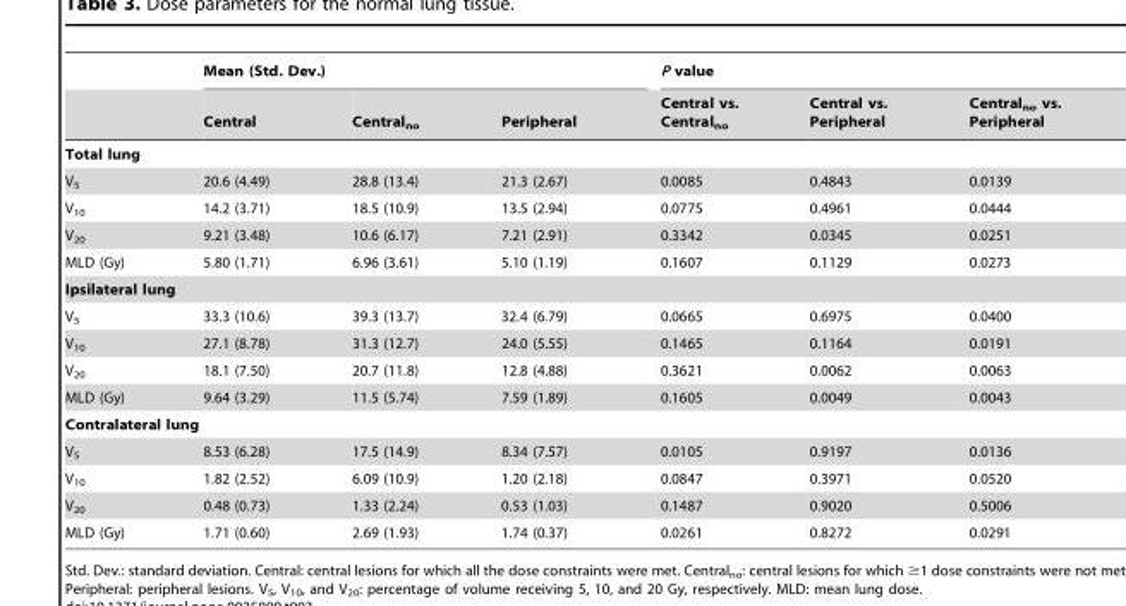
<table><thead><tr><td rowspan="2"></td><td colspan="3">Mean (Std. Dev.)</td><td colspan="3">P value</td></tr><tr><td>Central</td><td>Central<sub>no</sub></td><td>Peripheral</td><td>Central vs. Central<sub>no</sub></td><td>Central vs. Peripheral</td><td>Central<sub>no</sub> vs. Peripheral</td></tr></thead><tbody><tr><td colspan="7">Total lung</td></tr><tr><td>V<sub>5</sub></td><td>20.6 (4.49)</td><td>28.8 (13.4)</td><td>21.3 (2.67)</td><td>0.0085</td><td>0.4843</td><td>0.0139</td></tr><tr><td>V<sub>10</sub></td><td>14.2 (3.71)</td><td>18.5 (10.9)</td><td>13.5 (2.94)</td><td>0.0775</td><td>0.4961</td><td>0.0444</td></tr><tr><td>V<sub>20</sub></td><td>9.21 (3.48)</td><td>10.6 (6.17)</td><td>7.21 (2.91)</td><td>0.3342</td><td>0.0345</td><td>0.0251</td></tr><tr><td>MLD (Gy)</td><td>5.80 (1.71)</td><td>6.96 (3.61)</td><td>5.10 (1.19)</td><td>0.1607</td><td>0.1129</td><td>0.0273</td></tr><tr><td colspan="7">Ipsilateral lung</td></tr><tr><td>V<sub>5</sub></td><td>33.3 (10.6)</td><td>39.3 (13.7)</td><td>32.4 (6.79)</td><td>0.0665</td><td>0.6975</td><td>0.0400</td></tr><tr><td>V<sub>10</sub></td><td>27.1 (8.78)</td><td>31.3 (12.7)</td><td>24.0 (5.55)</td><td>0.1465</td><td>0.1164</td><td>0.0191</td></tr><tr><td>V<sub>20</sub></td><td>18.1 (7.50)</td><td>20.7 (11.8)</td><td>12.8 (4.88)</td><td>0.3621</td><td>0.0062</td><td>0.0063</td></tr><tr><td>MLD (Gy)</td><td>9.64 (3.29)</td><td>11.5 (5.74)</td><td>7.59 (1.89)</td><td>0.1605</td><td>0.0049</td><td>0.0043</td></tr><tr><td colspan="7">Contralateral lung</td></tr><tr><td>V<sub>5</sub></td><td>8.53 (6.28)</td><td>17.5 (14.9)</td><td>8.34 (7.57)</td><td>0.0105</td><td>0.9197</td><td>0.0136</td></tr><tr><td>V<sub>10</sub></td><td>1.82 (2.52)</td><td>6.09 (10.9)</td><td>1.20 (2.18)</td><td>0.0847</td><td>0.3971</td><td>0.0520</td></tr><tr><td>V<sub>20</sub></td><td>0.48 (0.73)</td><td>1.33 (2.24)</td><td>0.53 (1.03)</td><td>0.1487</td><td>0.9020</td><td>0.5006</td></tr><tr><td>MLD (Gy)</td><td>1.71 (0.60)</td><td>2.69 (1.93)</td><td>1.74 (0.37)</td><td>0.0261</td><td>0.8272</td><td>0.0291</td></tr></tbody></table>